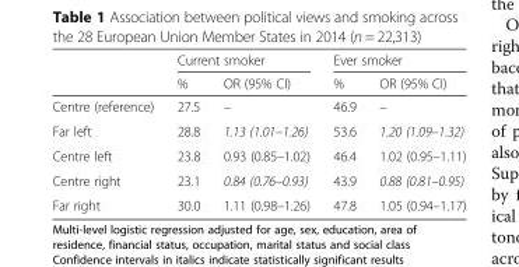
<table><thead><tr><td rowspan="2"></td><td colspan="2">Current smoker</td><td colspan="2">Ever smoker</td></tr><tr><td>%</td><td>OR (95% CI)</td><td>%</td><td>OR (95% CI)</td></tr></thead><tbody><tr><td>Centre (reference)</td><td>27.5</td><td>–</td><td>46.9</td><td>–</td></tr><tr><td>Far left</td><td>28.8</td><td>1.13 (1.01–1.26)</td><td>53.6</td><td>1.20 (1.09–1.32)</td></tr><tr><td>Centre left</td><td>23.8</td><td>0.93 (0.85–1.02)</td><td>46.4</td><td>1.02 (0.95–1.11)</td></tr><tr><td>Centre right</td><td>23.1</td><td>0.84 (0.76–0.93)</td><td>43.9</td><td>0.88 (0.81–0.95)</td></tr><tr><td>Far right</td><td>30.0</td><td>1.11 (0.98–1.26)</td><td>47.8</td><td>1.05 (0.94–1.17)</td></tr></tbody></table>